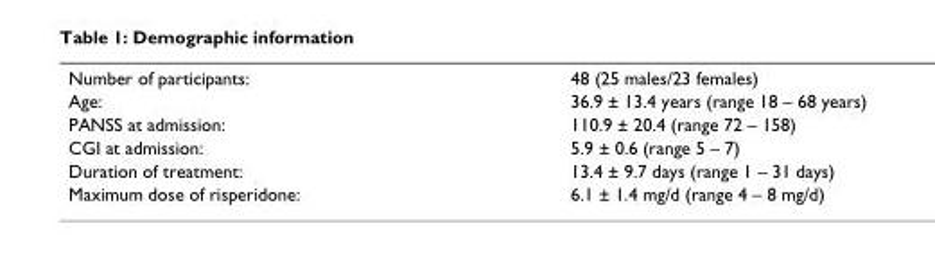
<table><tbody><tr><td>Number of participants:</td><td>48 (25 males/23 females)</td></tr><tr><td>Age:</td><td>36.9 ± 13.4 years (range 18 – 68 years)</td></tr><tr><td>PANSS at admission:</td><td>110.9 ± 20.4 (range 72 – 158)</td></tr><tr><td>CGI at admission:</td><td>5.9 ± 0.6 (range 5 – 7)</td></tr><tr><td>Duration of treatment:</td><td>13.4 ± 9.7 days (range 1 – 31 days)</td></tr><tr><td>Maximum dose of risperidone:</td><td>6.1 ± 1.4 mg/d (range 4 – 8 mg/d)</td></tr></tbody></table>